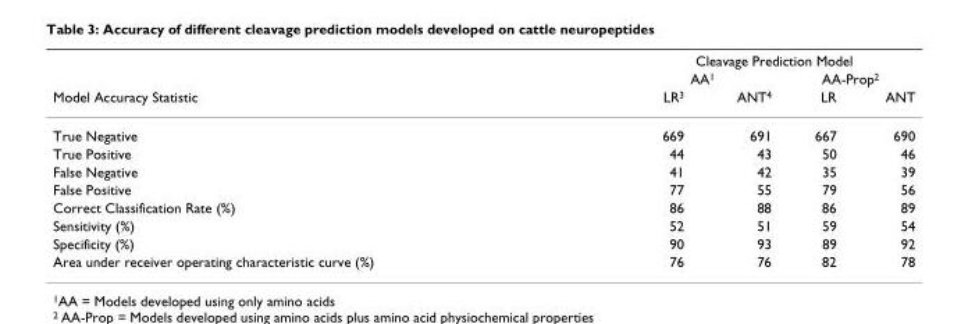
<table><thead><tr><td rowspan="3">Model Accuracy Statistic</td><td colspan="4">Cleavage Prediction Model</td></tr><tr><td colspan="2">AA<sup>1</sup></td><td colspan="2">AA-Prop<sup>2</sup></td></tr><tr><td>LR<sup>3</sup></td><td>ANT<sup>4</sup></td><td>LR</td><td>ANT</td></tr></thead><tbody><tr><td>True Negative</td><td>669</td><td>691</td><td>667</td><td>690</td></tr><tr><td>True Positive</td><td>44</td><td>43</td><td>50</td><td>46</td></tr><tr><td>False Negative</td><td>41</td><td>42</td><td>35</td><td>39</td></tr><tr><td>False Positive</td><td>77</td><td>55</td><td>79</td><td>56</td></tr><tr><td>Correct Classification Rate (%)</td><td>86</td><td>88</td><td>86</td><td>89</td></tr><tr><td>Sensitivity (%)</td><td>52</td><td>51</td><td>59</td><td>54</td></tr><tr><td>Specificity (%)</td><td>90</td><td>93</td><td>89</td><td>92</td></tr><tr><td>Area under receiver operating characteristic curve (%)</td><td>76</td><td>76</td><td>82</td><td>78</td></tr></tbody></table>